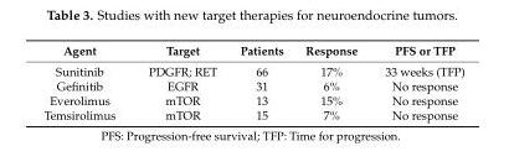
<table><thead><tr><td>Agent</td><td>Target</td><td>Patients</td><td>Response</td><td>PFS or TFP</td></tr></thead><tbody><tr><td>Sunitinib</td><td>PDGFR; RET</td><td>66</td><td>17%</td><td>33 weeks (TFP)</td></tr><tr><td>Gefinitib</td><td>EGFR</td><td>31</td><td>6%</td><td>No response</td></tr><tr><td>Everolimus</td><td>mTOR</td><td>13</td><td>15%</td><td>No response</td></tr><tr><td>Temsirolimus</td><td>mTOR</td><td>15</td><td>7%</td><td>No response</td></tr></tbody></table>